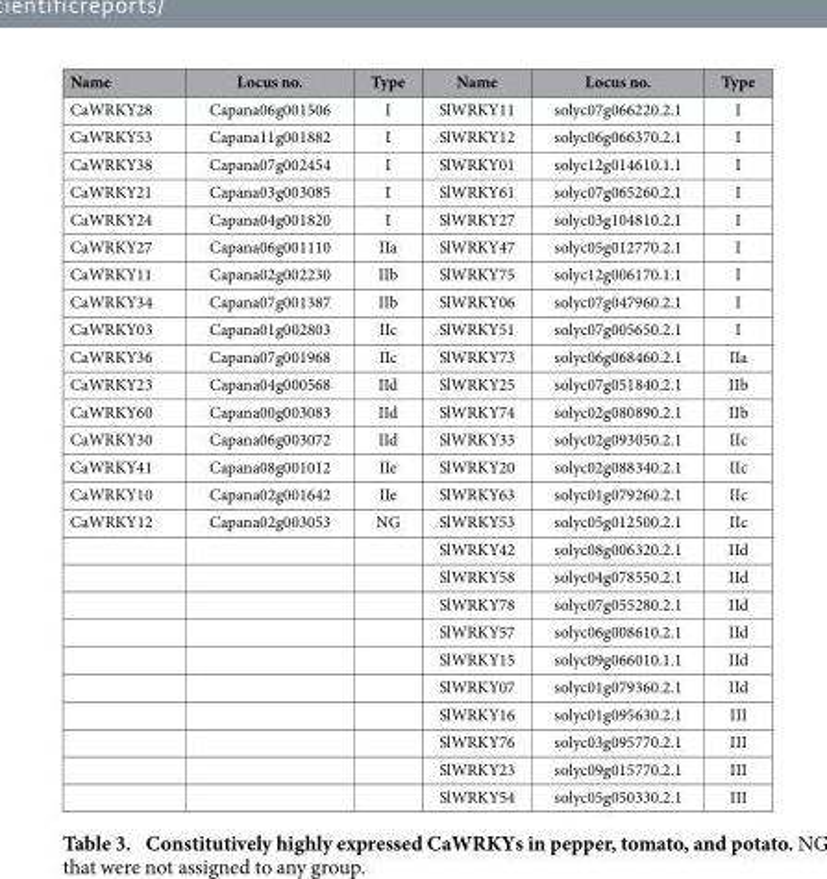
<table><thead><tr><td>Name</td><td>Locus no.</td><td>Type</td><td>Name</td><td>Locus no.</td><td>Type</td></tr></thead><tbody><tr><td>CaWRKY28</td><td>Capana06g001506</td><td>I</td><td>SlWRKY11</td><td>solyc07g066220.2.1</td><td>I</td></tr><tr><td>CaWRKY53</td><td>Capana11g001882</td><td>I</td><td>SlWRKY12</td><td>solyc06g066370.2.1</td><td>I</td></tr><tr><td>CaWRKY38</td><td>Capana07g002454</td><td>I</td><td>SlWRKY01</td><td>solyc12g014610.1.1</td><td>I</td></tr><tr><td>CaWRKY21</td><td>Capana03g003085</td><td>I</td><td>SlWRKY61</td><td>solyc07g065260.2.1</td><td>I</td></tr><tr><td>CaWRKY24</td><td>Capana04g001820</td><td>I</td><td>SlWRKY27</td><td>solyc03g104810.2.1</td><td>I</td></tr><tr><td>CaWRKY27</td><td>Capana06g001110</td><td>IIa</td><td>SlWRKY47</td><td>solyc05g012770.2.1</td><td>I</td></tr><tr><td>CaWRKY11</td><td>Capana02g002230</td><td>IIb</td><td>SlWRKY75</td><td>solyc12g006170.1.1</td><td>I</td></tr><tr><td>CaWRKY34</td><td>Capana07g001387</td><td>IIb</td><td>SlWRKY06</td><td>solyc07g047960.2.1</td><td>I</td></tr><tr><td>CaWRKY03</td><td>Capana01g002803</td><td>IIc</td><td>SlWRKY51</td><td>solyc07g005650.2.1</td><td>I</td></tr><tr><td>CaWRKY36</td><td>Capana07g001968</td><td>IIc</td><td>SlWRKY73</td><td>solyc06g068460.2.1</td><td>IIa</td></tr><tr><td>CaWRKY23</td><td>Capana04g000568</td><td>IId</td><td>SlWRKY25</td><td>solyc07g051840.2.1</td><td>IIb</td></tr><tr><td>CaWRKY60</td><td>Capana00g003083</td><td>IId</td><td>SlWRKY74</td><td>solyc02g080890.2.1</td><td>IIb</td></tr><tr><td>CaWRKY30</td><td>Capana06g003072</td><td>IId</td><td>SlWRKY33</td><td>solyc02g093050.2.1</td><td>IIc</td></tr><tr><td>CaWRKY41</td><td>Capana08g001012</td><td>IIe</td><td>SlWRKY20</td><td>solyc02g088340.2.1</td><td>IIc</td></tr><tr><td>CaWRKY10</td><td>Capana02g001642</td><td>IIe</td><td>SlWRKY63</td><td>solyc01g079260.2.1</td><td>IIc</td></tr><tr><td rowspan="11">CaWRKY12</td><td>Capana02g003053</td><td>NG</td><td>SlWRKY53</td><td>solyc05g012500.2.1</td><td>IIc</td></tr><tr><td></td><td></td><td>SlWRKY42</td><td>solyc08g006320.2.1</td><td>IId</td></tr><tr><td></td><td></td><td>SlWRKY58</td><td>solyc04g078550.2.1</td><td>IId</td></tr><tr><td></td><td></td><td>SlWRKY78</td><td>solyc07g055280.2.1</td><td>IId</td></tr><tr><td></td><td></td><td>SlWRKY57</td><td>solyc06g008610.2.1</td><td>IId</td></tr><tr><td></td><td></td><td>SlWRKY15</td><td>solyc09g066010.1.1</td><td>IId</td></tr><tr><td></td><td></td><td>SlWRKY07</td><td>solyc01g079360.2.1</td><td>IId</td></tr><tr><td></td><td></td><td>SlWRKY16</td><td>solyc01g095630.2.1</td><td>III</td></tr><tr><td></td><td></td><td>SlWRKY76</td><td>solyc03g095770.2.1</td><td>III</td></tr><tr><td></td><td></td><td>SlWRKY23</td><td>solyc09g015770.2.1</td><td>III</td></tr><tr><td></td><td></td><td>SlWRKY54</td><td>solyc05g050330.2.1</td><td>III</td></tr></tbody></table>